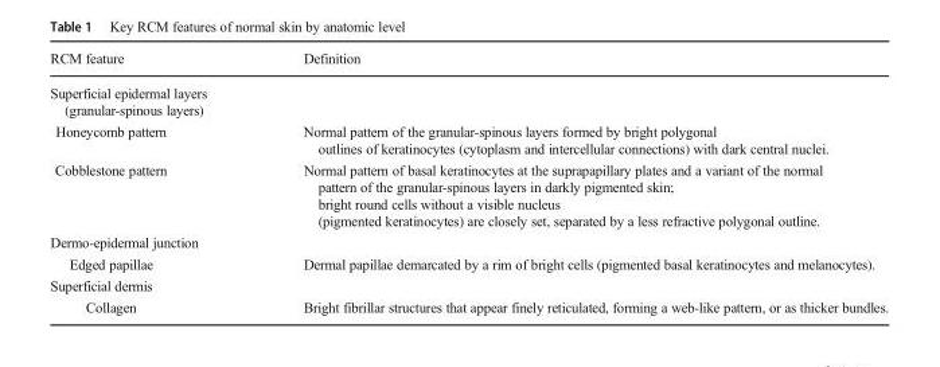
<table><thead><tr><td>RCM feature</td><td>Definition</td></tr></thead><tbody><tr><td colspan="2">Superficial epidermal layers (granular-spinous layers)</td></tr><tr><td>Honeycomb pattern</td><td>Normal pattern of the granular-spinous layers formed by bright polygonal outlines of keratinocytes (cytoplasm and intercellular connections) with dark central nuclei.</td></tr><tr><td>Cobblestone pattern</td><td>Normal pattern of basal keratinocytes at the suprapapillary plates and a variant of the normal pattern of the granular-spinous layers in darkly pigmented skin; bright round cells without a visible nucleus (pigmented keratinocytes) are closely set, separated by a less refractive polygonal outline.</td></tr><tr><td colspan="2">Dermo-epidermal junction</td></tr><tr><td>Edged papillae</td><td>Dermal papillae demarcated by a rim of bright cells (pigmented basal keratinocytes and melanocytes).</td></tr><tr><td colspan="2">Superficial dermis</td></tr><tr><td>Collagen</td><td>Bright fibrillar structures that appear finely reticulated, forming a web-like pattern, or as thicker bundles.</td></tr></tbody></table>